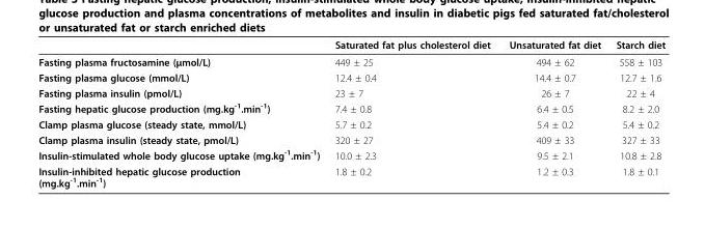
<table><thead><tr><td></td><td>Saturated fat plus cholesterol diet</td><td>Unsaturated fat diet</td><td>Starch diet</td></tr></thead><tbody><tr><td>Fasting plasma fructosamine (μmol/L)</td><td>449 ± 25</td><td>494 ± 62</td><td>558 ± 103</td></tr><tr><td>Fasting plasma glucose (mmol/L)</td><td>12.4 ± 0.4</td><td>14.4 ± 0.7</td><td>12.7 ± 1.6</td></tr><tr><td>Fasting plasma insulin (pmol/L)</td><td>23 ± 7</td><td>26 ± 7</td><td>22 ± 4</td></tr><tr><td>Fasting hepatic glucose production (mg.kg<sup>-1</sup>.min<sup>-1</sup>)</td><td>7.4 ± 0.8</td><td>6.4 ± 0.5</td><td>8.2 ± 2.0</td></tr><tr><td>Clamp plasma glucose (steady state, mmol/L)</td><td>5.7 ± 0.2</td><td>5.4 ± 0.2</td><td>5.4 ± 0.2</td></tr><tr><td>Clamp plasma insulin (steady state, pmol/L)</td><td>320 ± 27</td><td>409 ± 33</td><td>327 ± 33</td></tr><tr><td>Insulin-stimulated whole body glucose uptake (mg.kg<sup>-1</sup>.min<sup>-1</sup>)</td><td>10.0 ± 2.3</td><td>9.5 ± 2.1</td><td>10.8 ± 2.8</td></tr><tr><td>Insulin-inhibited hepatic glucose production (mg.kg<sup>-1</sup>.min<sup>-1</sup>)</td><td>1.8 ± 0.2</td><td>1.2 ± 0.3</td><td>1.8 ± 0.1</td></tr></tbody></table>